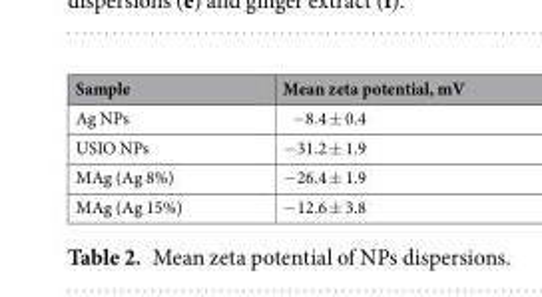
<table><thead><tr><td>Sample</td><td>Mean zeta potential, mV</td></tr></thead><tbody><tr><td>Ag NPs</td><td>−8.4 ± 0.4</td></tr><tr><td>USIO NPs</td><td>−31.2 ± 1.9</td></tr><tr><td>MAg (Ag 8%)</td><td>−26.4 ± 1.9</td></tr><tr><td>MAg (Ag 15%)</td><td>−12.6 ± 3.8</td></tr></tbody></table>